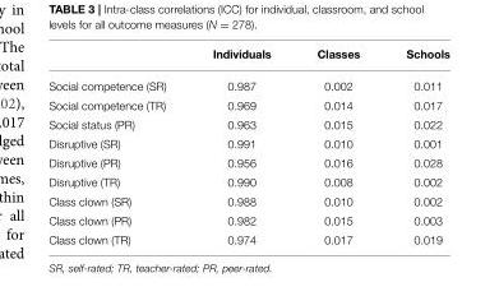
<table><thead><tr><td></td><td>Individuals</td><td>Classes</td><td>Schools</td></tr></thead><tbody><tr><td>Social competence (SR)</td><td>0.987</td><td>0.002</td><td>0.011</td></tr><tr><td>Social competence (TR)</td><td>0.969</td><td>0.014</td><td>0.017</td></tr><tr><td>Social status (PR)</td><td>0.963</td><td>0.015</td><td>0.022</td></tr><tr><td>Disruptive (SR)</td><td>0.991</td><td>0.010</td><td>0.001</td></tr><tr><td>Disruptive (PR)</td><td>0.956</td><td>0.016</td><td>0.028</td></tr><tr><td>Disruptive (TR)</td><td>0.990</td><td>0.008</td><td>0.002</td></tr><tr><td>Class clown (SR)</td><td>0.988</td><td>0.010</td><td>0.002</td></tr><tr><td>Class clown (PR)</td><td>0.982</td><td>0.015</td><td>0.003</td></tr><tr><td>Class clown (TR)</td><td>0.974</td><td>0.017</td><td>0.019</td></tr></tbody></table>